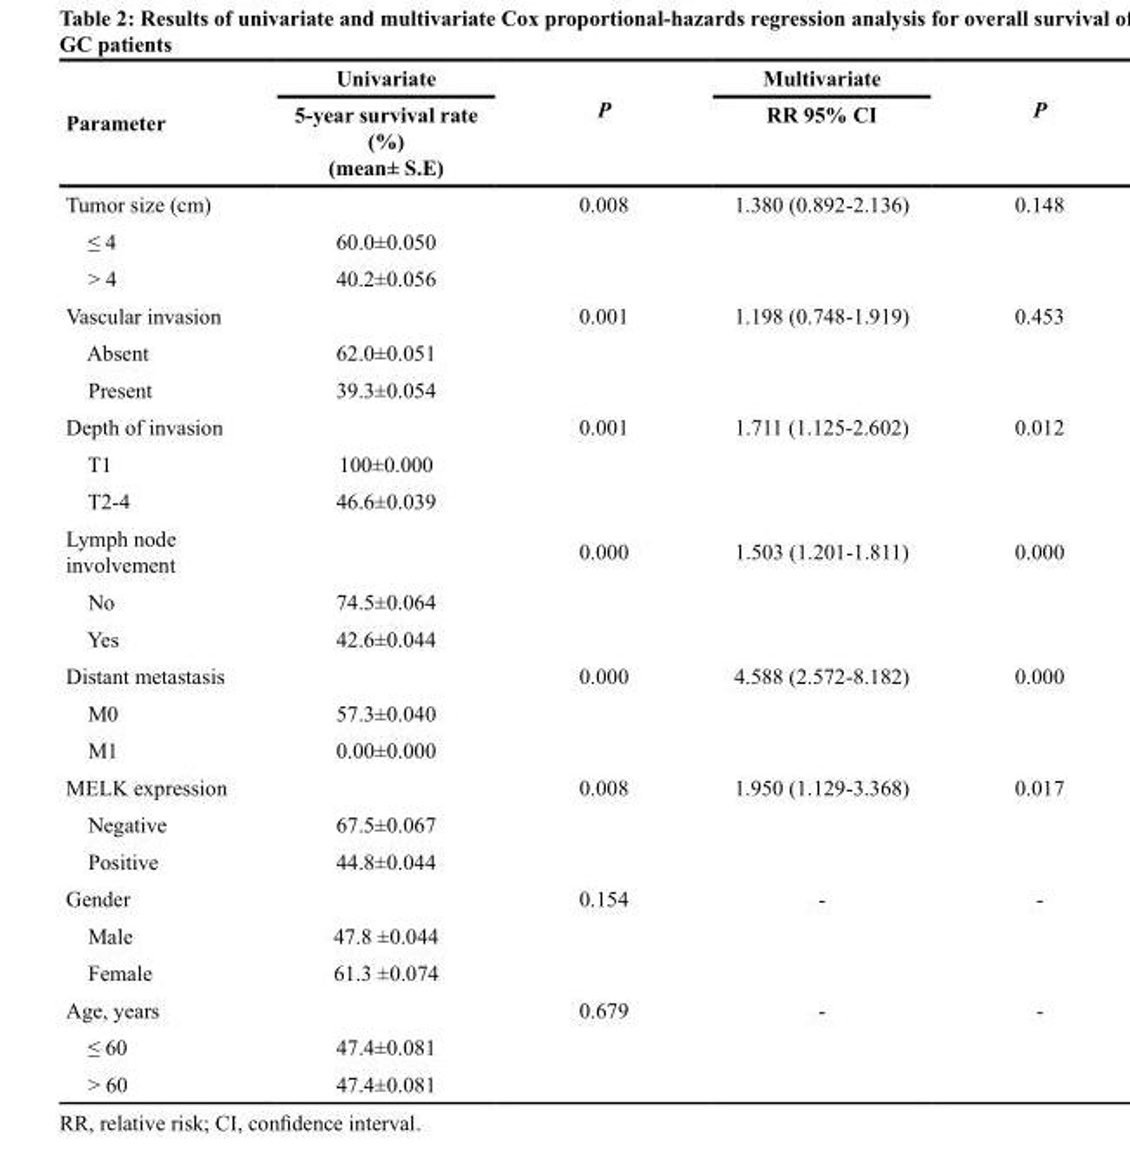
<table><thead><tr><td rowspan="2">Parameter</td><td rowspan="2">Univariate 5-year survival rate (%) (mean± S.E)</td><td rowspan="2">P</td><td rowspan="2">Multivariate RR 95% CI</td><td rowspan="2">P</td></tr><tr></tr></thead><tbody><tr><td>Tumor size (cm)</td><td></td><td>0.008</td><td>1.380 (0.892-2.136)</td><td>0.148</td></tr><tr><td>≤ 4</td><td>60.0±0.050</td><td></td><td></td><td></td></tr><tr><td>&gt; 4</td><td>40.2±0.056</td><td></td><td></td><td></td></tr><tr><td>Vascular invasion</td><td></td><td>0.001</td><td>1.198 (0.748-1.919)</td><td>0.453</td></tr><tr><td>Absent</td><td>62.0±0.051</td><td></td><td></td><td></td></tr><tr><td>Present</td><td>39.3±0.054</td><td></td><td></td><td></td></tr><tr><td>Depth of invasion</td><td></td><td>0.001</td><td>1.711 (1.125-2.602)</td><td>0.012</td></tr><tr><td>T1</td><td>100±0.000</td><td></td><td></td><td></td></tr><tr><td>T2-4</td><td>46.6±0.039</td><td></td><td></td><td></td></tr><tr><td>Lymph node involvement</td><td></td><td>0.000</td><td>1.503 (1.201-1.811)</td><td>0.000</td></tr><tr><td>No</td><td>74.5±0.064</td><td></td><td></td><td></td></tr><tr><td>Yes</td><td>42.6±0.044</td><td></td><td></td><td></td></tr><tr><td>Distant metastasis</td><td></td><td>0.000</td><td>4.588 (2.572-8.182)</td><td>0.000</td></tr><tr><td>M0</td><td>57.3±0.040</td><td></td><td></td><td></td></tr><tr><td>M1</td><td>0.00±0.000</td><td></td><td></td><td></td></tr><tr><td>MELK expression</td><td></td><td>0.008</td><td>1.950 (1.129-3.368)</td><td>0.017</td></tr><tr><td>Negative</td><td>67.5±0.067</td><td></td><td></td><td></td></tr><tr><td>Positive</td><td>44.8±0.044</td><td></td><td></td><td></td></tr><tr><td>Gender</td><td></td><td>0.154</td><td>-</td><td>-</td></tr><tr><td>Male</td><td>47.8 ±0.044</td><td></td><td></td><td></td></tr><tr><td>Female</td><td>61.3 ±0.074</td><td></td><td></td><td></td></tr><tr><td>Age, years</td><td></td><td>0.679</td><td>-</td><td>-</td></tr><tr><td>≤ 60</td><td>47.4±0.081</td><td></td><td></td><td></td></tr><tr><td>&gt; 60</td><td>47.4±0.081</td><td></td><td></td><td></td></tr></tbody></table>